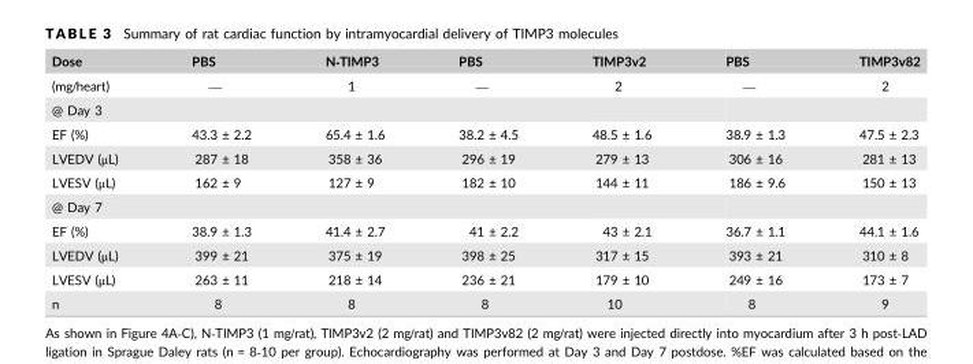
<table><thead><tr><td>Dose</td><td>PBS</td><td>N‐TIMP3</td><td>PBS</td><td>TIMP3v2</td><td>PBS</td><td>TIMP3v82</td></tr></thead><tbody><tr><td>(mg/heart)</td><td>—</td><td>1</td><td>—</td><td>2</td><td>—</td><td>2</td></tr><tr><td colspan="7">@ Day 3</td></tr><tr><td>EF (%)</td><td>43.3 ± 2.2</td><td>65.4 ± 1.6</td><td>38.2 ± 4.5</td><td>48.5 ± 1.6</td><td>38.9 ± 1.3</td><td>47.5 ± 2.3</td></tr><tr><td>LVEDV (μL)</td><td>287 ± 18</td><td>358 ± 36</td><td>296 ± 19</td><td>279 ± 13</td><td>306 ± 16</td><td>281 ± 13</td></tr><tr><td>LVESV (μL)</td><td>162 ± 9</td><td>127 ± 9</td><td>182 ± 10</td><td>144 ± 11</td><td>186 ± 9.6</td><td>150 ± 13</td></tr><tr><td colspan="7">@ Day 7</td></tr><tr><td>EF (%)</td><td>38.9 ± 1.3</td><td>41.4 ± 2.7</td><td>41 ± 2.2</td><td>43 ± 2.1</td><td>36.7 ± 1.1</td><td>44.1 ± 1.6</td></tr><tr><td>LVEDV (μL)</td><td>399 ± 21</td><td>375 ± 19</td><td>398 ± 25</td><td>317 ± 15</td><td>393 ± 21</td><td>310 ± 8</td></tr><tr><td>LVESV (μL)</td><td>263 ± 11</td><td>218 ± 14</td><td>236 ± 21</td><td>179 ± 10</td><td>249 ± 16</td><td>173 ± 7</td></tr><tr><td>n</td><td>8</td><td>8</td><td>8</td><td>10</td><td>8</td><td>9</td></tr></tbody></table>